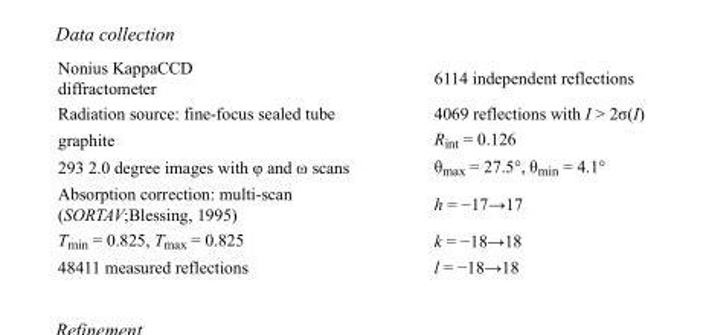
<table><tbody><tr><td>Nonius KappaCCD diffractometer</td><td>6114 independent reflections</td></tr><tr><td>Radiation source: fine-focus sealed tube</td><td>4069 reflections with I &gt; 2σ(I)</td></tr><tr><td>graphite</td><td>R<sub>int</sub> = 0.126</td></tr><tr><td>293 2.0 degree images with φ and ω scans</td><td>θ<sub>max</sub> = 27.5°, θ<sub>min</sub> = 4.1°</td></tr><tr><td>Absorption correction: multi-scan (SORTAV;Blessing, 1995)</td><td>h = −17→17</td></tr><tr><td>T<sub>min</sub> = 0.825, T<sub>max</sub> = 0.825</td><td>k = −18→18</td></tr><tr><td>48411 measured reflections</td><td>l = −18→18</td></tr></tbody></table>